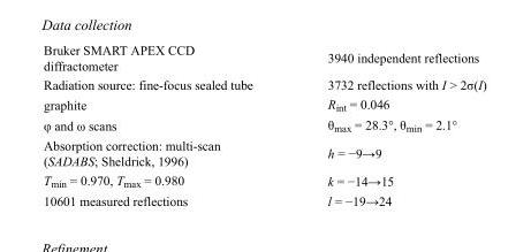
<table><tbody><tr><td>Bruker SMART APEX CCD diffractometer</td><td>3940 independent reflections</td></tr><tr><td>Radiation source: fine-focus sealed tube</td><td>3732 reflections with I &gt; 2σ(I)</td></tr><tr><td>graphite</td><td>R<sub>int</sub> = 0.046</td></tr><tr><td>φ and ω scans</td><td>θ<sub>max</sub> = 28.3°, θ<sub>min</sub> = 2.1°</td></tr><tr><td>Absorption correction: multi-scan (SADABS; Sheldrick, 1996)</td><td>h = −9→9</td></tr><tr><td>T<sub>min</sub> = 0.970, T<sub>max</sub> = 0.980</td><td>k = −14→15</td></tr><tr><td>10601 measured reflections</td><td>l = −19→24</td></tr></tbody></table>